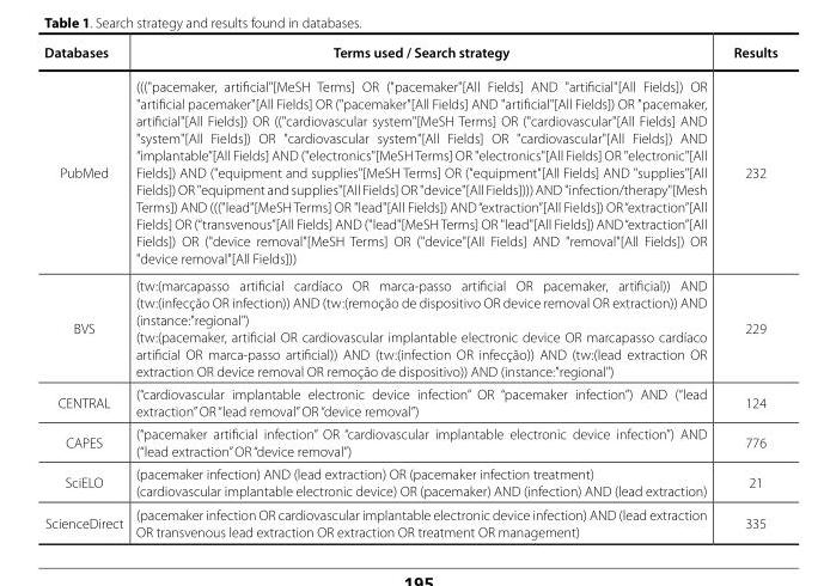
<table><thead><tr><td>Databases</td><td>Terms used / Search strategy</td><td>Results</td></tr></thead><tbody><tr><td>PubMed</td><td>(((&quot;pacemaker, artificial&quot;[MeSH Terms] OR (&quot;pacemaker&quot;[All Fields] AND &quot;artificial&quot;[All Fields]) OR &quot;artificial pacemaker&quot;[All Fields] OR (&quot;pacemaker&quot;[All Fields] AND &quot;artificial&quot;[All Fields]) OR &quot;pacemaker, artificial&quot;[All Fields]) OR ((&quot;cardiovascular system&quot;[MeSH Terms] OR (&quot;cardiovascular&quot;[All Fields] AND &quot;system&quot;[All Fields]) OR &quot;cardiovascular system&quot;[All Fields] OR &quot;cardiovascular&quot;[All Fields]) AND “implantable”[All Fields] AND (&quot;electronics&quot;[MeSH Terms] OR &quot;electronics&quot;[All Fields] OR &quot;electronic&quot;[All Fields]) AND (&quot;equipment and supplies&quot;[MeSH Terms] OR (&quot;equipment&quot;[All Fields] AND &quot;supplies&quot;[All Fields]) OR &quot;equipment and supplies&quot;[All Fields] OR &quot;device&quot;[All Fields]))) AND &quot;infection/therapy&quot;[Mesh Terms]) AND (((&quot;lead&quot;[MeSH Terms] OR &quot;lead&quot;[All Fields]) AND “extraction”[All Fields]) OR “extraction”[All Fields] OR (“transvenous”[All Fields] AND (&quot;lead&quot;[MeSH Terms] OR &quot;lead&quot;[All Fields]) AND “extraction”[All Fields]) OR (&quot;device removal&quot;[MeSH Terms] OR (&quot;device&quot;[All Fields] AND &quot;removal&quot;[All Fields]) OR &quot;device removal&quot;[All Fields]))</td><td>232</td></tr><tr><td>BVS</td><td>(tw:(marcapasso artificial cardíaco OR marca-passo artificial OR pacemaker, artificial)) AND (tw:(infecção OR infection)) AND (tw:(remoção de dispositivo OR device removal OR extraction)) AND (instance:&quot;regional&quot;) (tw:(pacemaker, artificial OR cardiovascular implantable electronic device OR marcapasso cardíaco artificial OR marca-passo artificial)) AND (tw:(infection OR infecção)) AND (tw:(lead extraction OR extraction OR device removal OR remoção de dispositivo)) AND (instance:&quot;regional&quot;)</td><td>229</td></tr><tr><td>CENTRAL</td><td>(“cardiovascular implantable electronic device infection” OR “pacemaker infection”) AND (“lead extraction” OR “lead removal” OR “device removal”)</td><td>124</td></tr><tr><td>CAPES</td><td>(“pacemaker artificial infection” OR “cardiovascular implantable electronic device infection”) AND (“lead extraction” OR “device removal”)</td><td>776</td></tr><tr><td>SciELO</td><td>(pacemaker infection) AND (lead extraction) OR (pacemaker infection treatment) (cardiovascular implantable electronic device) OR (pacemaker) AND (infection) AND (lead extraction)</td><td>21</td></tr><tr><td>ScienceDirect</td><td>(pacemaker infection OR cardiovascular implantable electronic device infection) AND (lead extraction OR transvenous lead extraction OR extraction OR treatment OR management)</td><td>335</td></tr></tbody></table>